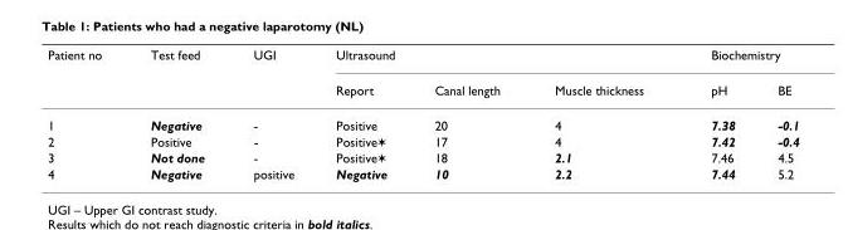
<table><thead><tr><td rowspan="2">Patient no</td><td rowspan="2">Test feed</td><td rowspan="2">UGI</td><td colspan="3">Ultrasound</td><td colspan="2">Biochemistry</td></tr><tr><td>Report</td><td>Canal length</td><td>Muscle thickness</td><td>pH</td><td>BE</td></tr></thead><tbody><tr><td>1</td><td>Negative</td><td>-</td><td>Positive</td><td>20</td><td>4</td><td>7.38</td><td>-0.1</td></tr><tr><td>2</td><td>Positive</td><td>-</td><td>Positive✶</td><td>17</td><td>4</td><td>7.42</td><td>-0.4</td></tr><tr><td>3</td><td>Not done</td><td>-</td><td>Positive✶</td><td>18</td><td>2.1</td><td>7.46</td><td>4.5</td></tr><tr><td>4</td><td>Negative</td><td>positive</td><td>Negative</td><td>10</td><td>2.2</td><td>7.44</td><td>5.2</td></tr></tbody></table>